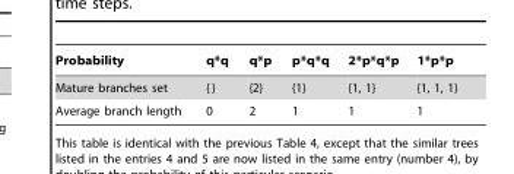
<table><thead><tr><td>Probability</td><td>q*q</td><td>q*p</td><td>p*q*q</td><td>2*p*q*p</td><td>1*p*p</td></tr></thead><tbody><tr><td>Mature branches set</td><td>{ }</td><td>{2}</td><td>{1}</td><td>{1, 1}</td><td>{1, 1, 1}</td></tr><tr><td>Average branch length</td><td>0</td><td>2</td><td>1</td><td>1</td><td>1</td></tr></tbody></table>